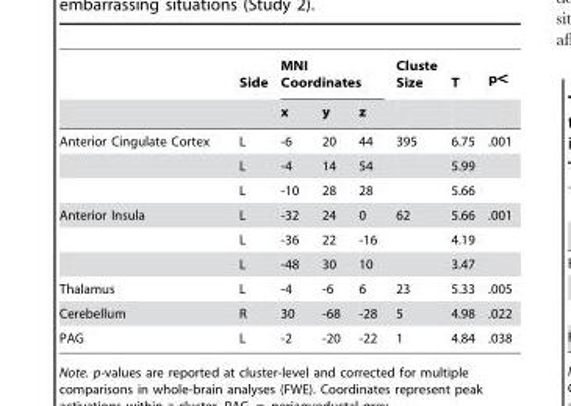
<table><thead><tr><td rowspan="2"></td><td rowspan="2">Side</td><td colspan="3">MNI Coordinates</td><td rowspan="2">Cluste Size</td><td rowspan="2">T</td><td rowspan="2">p&lt;</td></tr><tr><td>x</td><td>y</td><td>z</td></tr></thead><tbody><tr><td rowspan="3">Anterior Cingulate Cortex</td><td>L</td><td>-6</td><td>20</td><td>44</td><td>395</td><td>6.75</td><td>.001</td></tr><tr><td>L</td><td>-4</td><td>14</td><td>54</td><td></td><td>5.99</td><td></td></tr><tr><td>L</td><td>-10</td><td>28</td><td>28</td><td></td><td>5.66</td><td></td></tr><tr><td rowspan="3">Anterior Insula</td><td>L</td><td>-32</td><td>24</td><td>0</td><td>62</td><td>5.66</td><td>.001</td></tr><tr><td>L</td><td>-36</td><td>22</td><td>-16</td><td></td><td>4.19</td><td></td></tr><tr><td>L</td><td>-48</td><td>30</td><td>10</td><td></td><td>3.47</td><td></td></tr><tr><td>Thalamus</td><td>L</td><td>-4</td><td>-6</td><td>6</td><td>23</td><td>5.33</td><td>.005</td></tr><tr><td>Cerebellum</td><td>R</td><td>30</td><td>-68</td><td>-28</td><td>5</td><td>4.98</td><td>.022</td></tr><tr><td>PAG</td><td>L</td><td>-2</td><td>-20</td><td>-22</td><td>1</td><td>4.84</td><td>.038</td></tr></tbody></table>